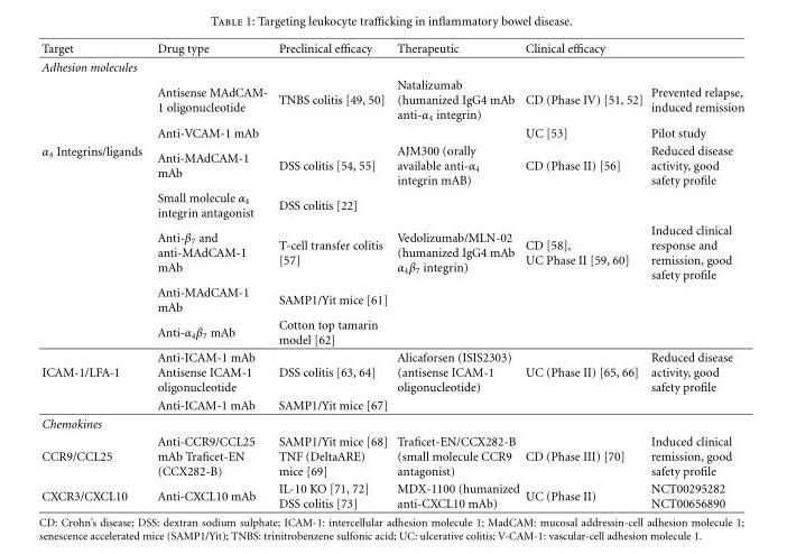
<table><thead><tr><td>Target</td><td>Drug type</td><td>Preclinical efficacy</td><td>Therapeutic</td><td>Clinical efficacy</td><td></td></tr></thead><tbody><tr><td colspan="6">Adhesion molecules</td></tr><tr><td rowspan="7">α<sub>4</sub> Integrins/ligands</td><td>Antisense MAdCAM- 1 oligonucleotide</td><td>TNBS colitis [49, 50]</td><td>Natalizumab (humanized IgG4 mAb anti-α<sub>4</sub> integrin)</td><td>CD (Phase IV) [51, 52]</td><td>Prevented relapse, induced remission</td></tr><tr><td>Anti-VCAM-1 mAb</td><td></td><td></td><td>UC [53]</td><td>Pilot study</td></tr><tr><td>Anti-MAdCAM-1 mAb</td><td>DSS colitis [54, 55]</td><td>AJM300 (orally available anti-α<sub>4</sub> integrin mAB)</td><td>CD (Phase II) [56]</td><td>Reduced disease activity, good safety profile</td></tr><tr><td>Small molecule α<sub>4</sub> integrin antagonist</td><td>DSS colitis [22]</td><td></td><td></td><td></td></tr><tr><td>Anti-β<sub>7</sub> and anti-MAdCAM-1 mAb</td><td>T-cell transfer colitis [57]</td><td>Vedolizumab/MLN-02 (humanized IgG4 mAb α<sub>4</sub>β<sub>7</sub> integrin)</td><td>CD [58], UC Phase II [59, 60]</td><td>Induced clinical response and remission, good safety profile</td></tr><tr><td>Anti-MAdCAM-1 mAb</td><td>SAMP1/Yit mice [61]</td><td></td><td></td><td></td></tr><tr><td>Anti-α<sub>4</sub>β<sub>7</sub> mAb</td><td>Cotton top tamarin model [62]</td><td></td><td></td><td></td></tr><tr><td rowspan="2">ICAM-1/LFA-1</td><td>Anti-ICAM-1 mAb Antisense ICAM-1 oligonucleotide</td><td>DSS colitis [63, 64]</td><td>Alicaforsen (ISIS2303) (antisense ICAM-1 oligonucleotide)</td><td>UC (Phase II) [65, 66]</td><td>Reduced disease activity, good safety profile</td></tr><tr><td>Anti-ICAM-1 mAb</td><td>SAMP1/Yit mice [67]</td><td></td><td></td><td></td></tr><tr><td colspan="6">Chemokines</td></tr><tr><td>CCR9/CCL25</td><td>Anti-CCR9/CCL25 mAb Traficet-EN (CCX282-B)</td><td>SAMP1/Yit mice [68] TNF (DeltaARE) mice [69]</td><td>Traficet-EN/CCX282-B (small molecule CCR9 antagonist)</td><td>CD (Phase III) [70]</td><td>Induced clinical remission, good safety profile</td></tr><tr><td>CXCR3/CXCL10</td><td>Anti-CXCL10 mAb</td><td>IL-10 KO [71, 72] DSS colitis [73]</td><td>MDX-1100 (humanized anti-CXCL10 mAb)</td><td>UC (Phase II)</td><td>NCT00295282 NCT00656890</td></tr></tbody></table>